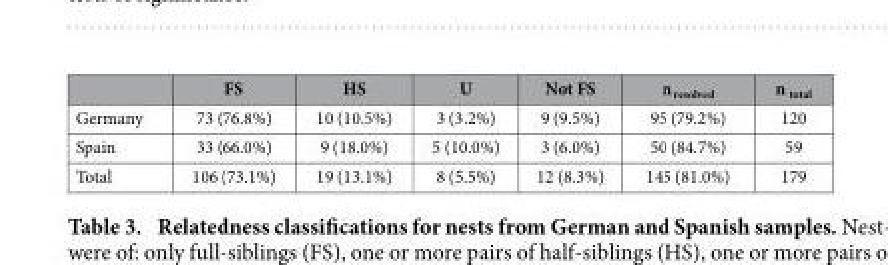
<table><thead><tr><td></td><td>FS</td><td>HS</td><td>U</td><td>Not FS</td><td>n <sub>resolved</sub></td><td>n <sub>total</sub></td></tr></thead><tbody><tr><td>Germany</td><td>73 (76.8%)</td><td>10 (10.5%)</td><td>3 (3.2%)</td><td>9 (9.5%)</td><td>95 (79.2%)</td><td>120</td></tr><tr><td>Spain</td><td>33 (66.0%)</td><td>9 (18.0%)</td><td>5 (10.0%)</td><td>3 (6.0%)</td><td>50 (84.7%)</td><td>59</td></tr><tr><td>Total</td><td>106 (73.1%)</td><td>19 (13.1%)</td><td>8 (5.5%)</td><td>12 (8.3%)</td><td>145 (81.0%)</td><td>179</td></tr></tbody></table>